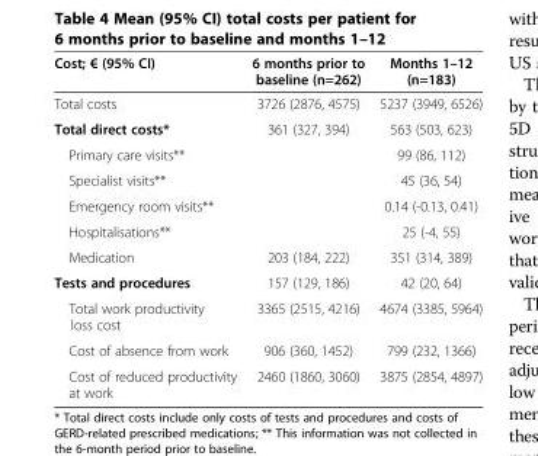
<table><thead><tr><td>Cost; € (95% CI)</td><td>6 months prior to baseline (n=262)</td><td>Months 1–12 (n=183)</td></tr></thead><tbody><tr><td>Total costs</td><td>3726 (2876, 4575)</td><td>5237 (3949, 6526)</td></tr><tr><td>Total direct costs*</td><td>361 (327, 394)</td><td>563 (503, 623)</td></tr><tr><td>Primary care visits**</td><td></td><td>99 (86, 112)</td></tr><tr><td>Specialist visits**</td><td></td><td>45 (36, 54)</td></tr><tr><td>Emergency room visits**</td><td></td><td>0.14 (-0.13, 0.41)</td></tr><tr><td>Hospitalisations**</td><td></td><td>25 (-4, 55)</td></tr><tr><td>Medication</td><td>203 (184, 222)</td><td>351 (314, 389)</td></tr><tr><td>Tests and procedures</td><td>157 (129, 186)</td><td>42 (20, 64)</td></tr><tr><td>Total work productivity loss cost</td><td>3365 (2515, 4216)</td><td>4674 (3385, 5964)</td></tr><tr><td>Cost of absence from work</td><td>906 (360, 1452)</td><td>799 (232, 1366)</td></tr><tr><td>Cost of reduced productivity at work</td><td>2460 (1860, 3060)</td><td>3875 (2854, 4897)</td></tr></tbody></table>